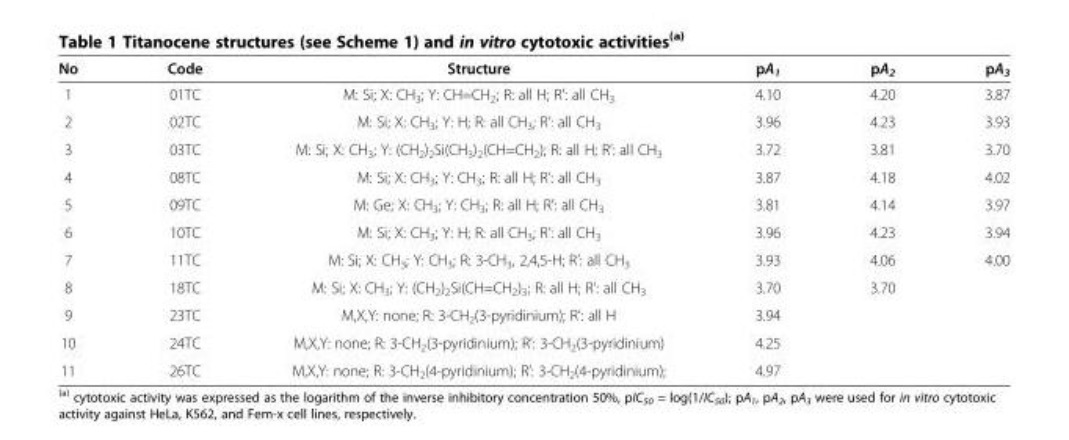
<table><thead><tr><td>No</td><td>Code</td><td>Structure</td><td>pA<sub>1</sub></td><td>pA<sub>2</sub></td><td>pA<sub>3</sub></td></tr></thead><tbody><tr><td>1</td><td>01TC</td><td>M: Si; X: CH<sub>3</sub>; Y: CH=CH<sub>2</sub>; R: all H; R’: all CH<sub>3</sub></td><td>4.10</td><td>4.20</td><td>3.87</td></tr><tr><td>2</td><td>02TC</td><td>M: Si; X: CH<sub>3</sub>; Y: H; R: all CH<sub>3</sub>; R’: all CH<sub>3</sub></td><td>3.96</td><td>4.23</td><td>3.93</td></tr><tr><td>3</td><td>03TC</td><td>M: Si; X: CH<sub>3</sub>; Y: (CH<sub>2</sub>)<sub>2</sub>Si(CH<sub>3</sub>)<sub>2</sub>(CH=CH<sub>2</sub>); R: all H; R’: all CH<sub>3</sub></td><td>3.72</td><td>3.81</td><td>3.70</td></tr><tr><td>4</td><td>08TC</td><td>M: Si; X: CH<sub>3</sub>; Y: CH<sub>3</sub>; R: all H; R’: all CH<sub>3</sub></td><td>3.87</td><td>4.18</td><td>4.02</td></tr><tr><td>5</td><td>09TC</td><td>M: Ge; X: CH<sub>3</sub>; Y: CH<sub>3</sub>; R: all H; R’: all CH<sub>3</sub></td><td>3.81</td><td>4.14</td><td>3.97</td></tr><tr><td>6</td><td>10TC</td><td>M: Si; X: CH<sub>3</sub>; Y: H; R: all CH<sub>3</sub>; R’: all CH<sub>3</sub></td><td>3.96</td><td>4.23</td><td>3.94</td></tr><tr><td>7</td><td>11TC</td><td>M: Si; X: CH<sub>3</sub>; Y: CH<sub>3</sub>; R: 3-CH<sub>3</sub>, 2,4,5-H; R’: all CH<sub>3</sub></td><td>3.93</td><td>4.06</td><td>4.00</td></tr><tr><td>8</td><td>18TC</td><td>M: Si; X: CH<sub>3</sub>; Y: (CH<sub>2</sub>)<sub>2</sub>Si(CH=CH<sub>2</sub>)<sub>3</sub>; R: all H; R’: all CH<sub>3</sub></td><td>3.70</td><td>3.70</td><td></td></tr><tr><td>9</td><td>23TC</td><td>M,X,Y: none; R: 3-CH<sub>2</sub>(3-pyridinium); R’: all H</td><td>3.94</td><td></td><td></td></tr><tr><td>10</td><td>24TC</td><td>M,X,Y: none; R: 3-CH<sub>2</sub>(3-pyridinium); R’: 3-CH<sub>2</sub>(3-pyridinium)</td><td>4.25</td><td></td><td></td></tr><tr><td>11</td><td>26TC</td><td>M,X,Y: none; R: 3-CH2(4-pyridinium); R’: 3-CH2(4-pyridinium);</td><td>4.97</td><td></td><td></td></tr></tbody></table>